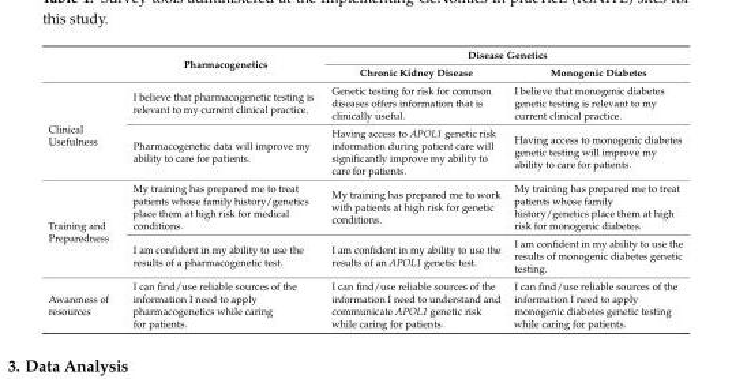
<table><thead><tr><td rowspan="2"></td><td rowspan="2">Pharmacogenetics</td><td colspan="2">Disease Genetics</td></tr><tr><td>Chronic Kidney Disease</td><td>Monogenic Diabetes</td></tr></thead><tbody><tr><td rowspan="2">Clinical Usefulness</td><td>I believe that pharmacogenetic testing is relevant to my current clinical practice.</td><td>Genetic testing for risk for common diseases offers information that is clinically useful.</td><td>I believe that monogenic diabetes genetic testing is relevant to my current clinical practice.</td></tr><tr><td>Pharmacogenetic data will improve my ability to care for patients.</td><td>Having access to APOL1 genetic risk information during patient care will significantly improve my ability to care for patients.</td><td>Having access to monogenic diabetes genetic testing will improve my ability to care for patients.</td></tr><tr><td rowspan="2">Training and Preparedness</td><td>My training has prepared me to treat patients whose family history/genetics place them at high risk for medical conditions.</td><td>My training has prepared me to work with patients at high risk for genetic conditions.</td><td>My training has prepared me to treat patients whose family history/genetics place them at high risk for monogenic diabetes.</td></tr><tr><td>I am confident in my ability to use the results of a pharmacogenetic test.</td><td>I am confident in my ability to use the results of an APOL1 genetic test.</td><td>I am confident in my ability to use the results of monogenic diabetes genetic testing.</td></tr><tr><td>Awareness of resources</td><td>I can find/use reliable sources of the information I need to apply pharmacogenetics while caring for patients.</td><td>I can find/use reliable sources of the information I need to understand and communicate APOL1 genetic risk while caring for patients.</td><td>I can find/use reliable sources of the information I need to apply monogenic diabetes genetic testing while caring for patients.</td></tr></tbody></table>